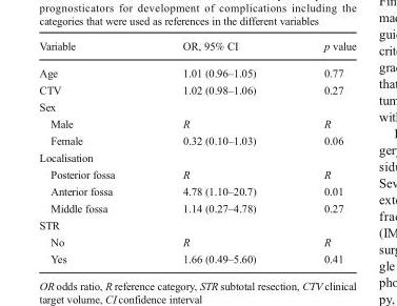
<table><thead><tr><td>Variable</td><td>OR, 95% CI</td><td>p value</td></tr></thead><tbody><tr><td>Age</td><td>1.01 (0.96–1.05)</td><td>0.77</td></tr><tr><td>CTV</td><td>1.02 (0.98–1.06)</td><td>0.27</td></tr><tr><td colspan="3">Sex</td></tr><tr><td>Male</td><td>R</td><td>R</td></tr><tr><td>Female</td><td>0.32 (0.10–1.03)</td><td>0.06</td></tr><tr><td colspan="3">Localisation</td></tr><tr><td>Posterior fossa</td><td>R</td><td>R</td></tr><tr><td>Anterior fossa</td><td>4.78 (1.10–20.7)</td><td>0.01</td></tr><tr><td>Middle fossa</td><td>1.14 (0.27–4.78)</td><td>0.27</td></tr><tr><td colspan="3">STR</td></tr><tr><td>No</td><td>R</td><td>R</td></tr><tr><td>Yes</td><td>1.66 (0.49–5.60)</td><td>0.41</td></tr></tbody></table>